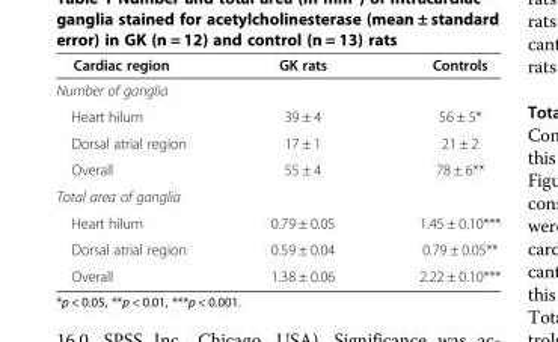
<table><thead><tr><td>Cardiac region</td><td>GK rats</td><td>Controls</td></tr></thead><tbody><tr><td colspan="3">Number of ganglia</td></tr><tr><td>Heart hilum</td><td>39 ± 4</td><td>56 ± 5*</td></tr><tr><td>Dorsal atrial region</td><td>17 ± 1</td><td>21 ± 2</td></tr><tr><td>Overall</td><td>55 ± 4</td><td>78 ± 6**</td></tr><tr><td colspan="3">Total area of ganglia</td></tr><tr><td>Heart hilum</td><td>0.79 ± 0.05</td><td>1.45 ± 0.10***</td></tr><tr><td>Dorsal atrial region</td><td>0.59 ± 0.04</td><td>0.79 ± 0.05**</td></tr><tr><td>Overall</td><td>1.38 ± 0.06</td><td>2.22 ± 0.10***</td></tr></tbody></table>